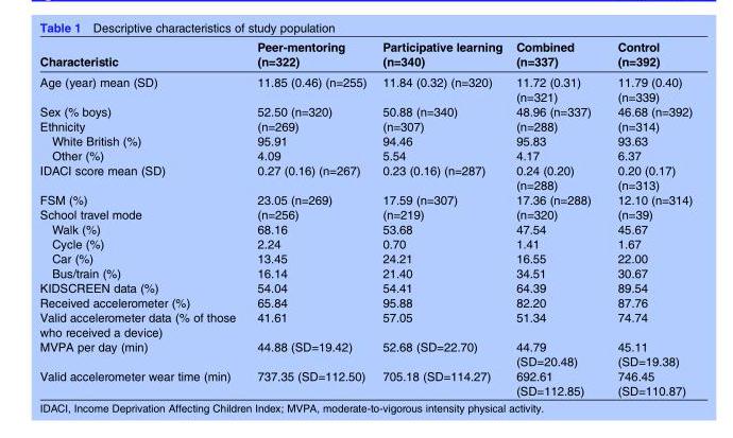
<table><thead><tr><td>Characteristic</td><td>Peer-mentoring (n=322)</td><td>Participative learning (n=340)</td><td>Combined (n=337)</td><td>Control (n=392)</td></tr></thead><tbody><tr><td>Age (year) mean (SD)</td><td>11.85 (0.46) (n=255)</td><td>11.84 (0.32) (n=320)</td><td>11.72 (0.31) (n=321)</td><td>11.79 (0.40) (n=339)</td></tr><tr><td>Sex (% boys)</td><td>52.50 (n=320)</td><td>50.88 (n=340)</td><td>48.96 (n=337)</td><td>46.68 (n=392)</td></tr><tr><td>Ethnicity</td><td>(n=269)</td><td>(n=307)</td><td>(n=288)</td><td>(n=314)</td></tr><tr><td>White British (%)</td><td>95.91</td><td>94.46</td><td>95.83</td><td>93.63</td></tr><tr><td>Other (%)</td><td>4.09</td><td>5.54</td><td>4.17</td><td>6.37</td></tr><tr><td>IDACI score mean (SD)</td><td>0.27 (0.16) (n=267)</td><td>0.23 (0.16) (n=287)</td><td>0.24 (0.20) (n=288)</td><td>0.20 (0.17) (n=313)</td></tr><tr><td>FSM (%)</td><td>23.05 (n=269)</td><td>17.59 (n=307)</td><td>17.36 (n=288)</td><td>12.10 (n=314)</td></tr><tr><td>School travel mode</td><td>(n=256)</td><td>(n=219)</td><td>(n=320)</td><td>(n=39)</td></tr><tr><td>Walk (%)</td><td>68.16</td><td>53.68</td><td>47.54</td><td>45.67</td></tr><tr><td>Cycle (%)</td><td>2.24</td><td>0.70</td><td>1.41</td><td>1.67</td></tr><tr><td>Car (%)</td><td>13.45</td><td>24.21</td><td>16.55</td><td>22.00</td></tr><tr><td>Bus/train (%)</td><td>16.14</td><td>21.40</td><td>34.51</td><td>30.67</td></tr><tr><td>KIDSCREEN data (%)</td><td>54.04</td><td>54.41</td><td>64.39</td><td>89.54</td></tr><tr><td>Received accelerometer (%)</td><td>65.84</td><td>95.88</td><td>82.20</td><td>87.76</td></tr><tr><td>Valid accelerometer data (% of those who received a device)</td><td>41.61</td><td>57.05</td><td>51.34</td><td>74.74</td></tr><tr><td>MVPA per day (min)</td><td>44.88 (SD=19.42)</td><td>52.68 (SD=22.70)</td><td>44.79 (SD=20.48)</td><td>45.11 (SD=19.38)</td></tr><tr><td>Valid accelerometer wear time (min)</td><td>737.35 (SD=112.50)</td><td>705.18 (SD=114.27)</td><td>692.61 (SD=112.85)</td><td>746.45 (SD=110.87)</td></tr></tbody></table>